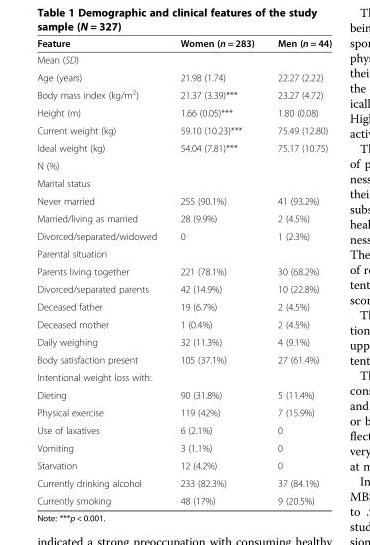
<table><thead><tr><td>Feature</td><td>Women (n = 283)</td><td>Men (n = 44)</td></tr></thead><tbody><tr><td colspan="3">Mean (SD)</td></tr><tr><td>Age (years)</td><td>21.98 (1.74)</td><td>22.27 (2.22)</td></tr><tr><td>Body mass index (kg/m<sup>2</sup>)</td><td>21.37 (3.39)***</td><td>23.27 (4.72)</td></tr><tr><td>Height (m)</td><td>1.66 (0.05)***</td><td>1.80 (0.08)</td></tr><tr><td>Current weight (kg)</td><td>59.10 (10.23)***</td><td>75.49 (12.80)</td></tr><tr><td>Ideal weight (kg)</td><td>54.04 (7.81)***</td><td>75.17 (10.75)</td></tr><tr><td colspan="3">N (%)</td></tr><tr><td colspan="3">Marital status</td></tr><tr><td>Never married</td><td>255 (90.1%)</td><td>41 (93.2%)</td></tr><tr><td>Married/living as married</td><td>28 (9.9%)</td><td>2 (4.5%)</td></tr><tr><td>Divorced/separated/widowed</td><td>0</td><td>1 (2.3%)</td></tr><tr><td colspan="3">Parental situation</td></tr><tr><td>Parents living together</td><td>221 (78.1%)</td><td>30 (68.2%)</td></tr><tr><td>Divorced/separated parents</td><td>42 (14.9%)</td><td>10 (22.8%)</td></tr><tr><td>Deceased father</td><td>19 (6.7%)</td><td>2 (4.5%)</td></tr><tr><td>Deceased mother</td><td>1 (0.4%)</td><td>2 (4.5%)</td></tr><tr><td>Daily weighing</td><td>32 (11.3%)</td><td>4 (9.1%)</td></tr><tr><td>Body satisfaction present</td><td>105 (37.1%)</td><td>27 (61.4%)</td></tr><tr><td colspan="3">Intentional weight loss with:</td></tr><tr><td>Dieting</td><td>90 (31.8%)</td><td>5 (11.4%)</td></tr><tr><td>Physical exercise</td><td>119 (42%)</td><td>7 (15.9%)</td></tr><tr><td>Use of laxatives</td><td>6 (2.1%)</td><td>0</td></tr><tr><td>Vomiting</td><td>3 (1.1%)</td><td>0</td></tr><tr><td>Starvation</td><td>12 (4.2%)</td><td>0</td></tr><tr><td>Currently drinking alcohol</td><td>233 (82.3%)</td><td>37 (84.1%)</td></tr><tr><td>Currently smoking</td><td>48 (17%)</td><td>9 (20.5%)</td></tr></tbody></table>